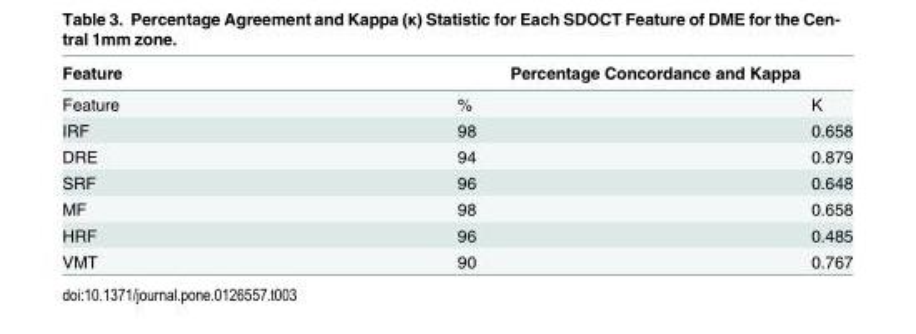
<table><thead><tr><td rowspan="2">Feature Feature</td><td colspan="2">Percentage Concordance and Kappa</td></tr><tr><td>%</td><td>Κ</td></tr></thead><tbody><tr><td>IRF</td><td>98</td><td>0.658</td></tr><tr><td>DRE</td><td>94</td><td>0.879</td></tr><tr><td>SRF</td><td>96</td><td>0.648</td></tr><tr><td>MF</td><td>98</td><td>0.658</td></tr><tr><td>HRF</td><td>96</td><td>0.485</td></tr><tr><td>VMT</td><td>90</td><td>0.767</td></tr></tbody></table>